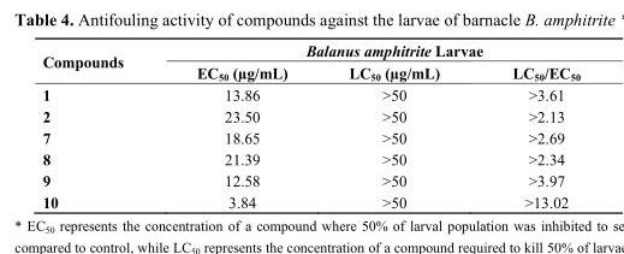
<table><thead><tr><td rowspan="2">Compounds</td><td colspan="3">Balanus amphitrite Larvae</td></tr><tr><td>EC<sub>50</sub> (µg/mL)</td><td>LC<sub>50</sub> (µg/mL)</td><td>LC<sub>50</sub>/EC<sub>50</sub></td></tr></thead><tbody><tr><td>1</td><td>13.86</td><td>&gt;50</td><td>&gt;3.61</td></tr><tr><td>2</td><td>23.50</td><td>&gt;50</td><td>&gt;2.13</td></tr><tr><td>7</td><td>18.65</td><td>&gt;50</td><td>&gt;2.69</td></tr><tr><td>8</td><td>21.39</td><td>&gt;50</td><td>&gt;2.34</td></tr><tr><td>9</td><td>12.58</td><td>&gt;50</td><td>&gt;3.97</td></tr><tr><td>10</td><td>3.84</td><td>&gt;50</td><td>&gt;13.02</td></tr></tbody></table>